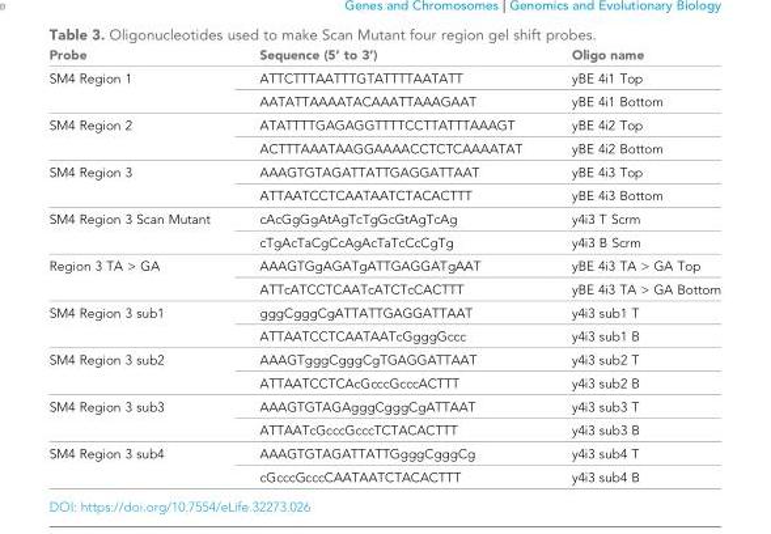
<table><thead><tr><td>Probe</td><td>Sequence (5’ to 3’)</td><td>Oligo name</td></tr></thead><tbody><tr><td rowspan="2">SM4 Region 1</td><td>ATTCTTTAATTTGTATTTTAATATT</td><td>yBE 4i1 Top</td></tr><tr><td>AATATTAAAATACAAATTAAAGAAT</td><td>yBE 4i1 Bottom</td></tr><tr><td rowspan="2">SM4 Region 2</td><td>ATATTTTGAGAGGTTTTCCTTATTTAAAGT</td><td>yBE 4i2 Top</td></tr><tr><td>ACTTTAAATAAGGAAAACCTCTCAAAATAT</td><td>yBE 4i2 Bottom</td></tr><tr><td rowspan="2">SM4 Region 3</td><td>AAAGTGTAGATTATTGAGGATTAAT</td><td>yBE 4i3 Top</td></tr><tr><td>ATTAATCCTCAATAATCTACACTTT</td><td>yBE 4i3 Bottom</td></tr><tr><td rowspan="2">SM4 Region 3 Scan Mutant</td><td>cAcGgGgAtAgTcTgGcGtAgTcAg</td><td>y4i3 T Scrm</td></tr><tr><td>cTgAcTaCgCcAgAcTaTcCcCgTg</td><td>y4i3 B Scrm</td></tr><tr><td rowspan="2">Region 3 TA &gt; GA</td><td>AAAGTGgAGATgATTGAGGATgAAT</td><td>yBE 4i3 TA &gt; GA Top</td></tr><tr><td>ATTcATCCTCAATcATCTcCACTTT</td><td>yBE 4i3 TA &gt; GA Bottom</td></tr><tr><td rowspan="2">SM4 Region 3 sub1</td><td>gggCgggCgATTATTGAGGATTAAT</td><td>y4i3 sub1 T</td></tr><tr><td>ATTAATCCTCAATAATcGgggGccc</td><td>y4i3 sub1 B</td></tr><tr><td rowspan="2">SM4 Region 3 sub2</td><td>AAAGTgggCgggCgTGAGGATTAAT</td><td>y4i3 sub2 T</td></tr><tr><td>ATTAATCCTCAcGcccGcccACTTT</td><td>y4i3 sub2 B</td></tr><tr><td rowspan="2">SM4 Region 3 sub3</td><td>AAAGTGTAGAgggCgggCgATTAAT</td><td>y4i3 sub3 T</td></tr><tr><td>ATTAATcGcccGcccTCTACACTTT</td><td>y4i3 sub3 B</td></tr><tr><td rowspan="2">SM4 Region 3 sub4</td><td>AAAGTGTAGATTATTGgggCgggCg</td><td>y4i3 sub4 T</td></tr><tr><td>cGcccGcccCAATAATCTACACTTT</td><td>y4i3 sub4 B</td></tr></tbody></table>